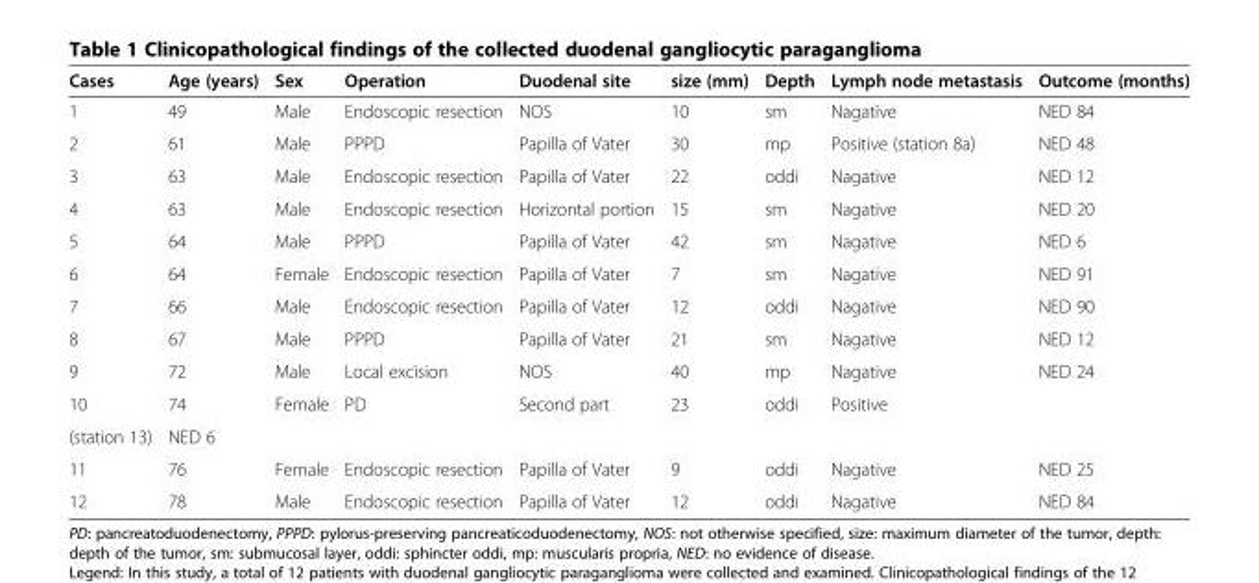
<table><thead><tr><td>Cases</td><td>Age (years)</td><td>Sex</td><td>Operation</td><td>Duodenal site</td><td>size (mm)</td><td>Depth</td><td>Lymph node metastasis</td><td>Outcome (months)</td></tr></thead><tbody><tr><td>1</td><td>49</td><td>Male</td><td>Endoscopic resection</td><td>NOS</td><td>10</td><td>sm</td><td>Nagative</td><td>NED 84</td></tr><tr><td>2</td><td>61</td><td>Male</td><td>PPPD</td><td>Papilla of Vater</td><td>30</td><td>mp</td><td>Positive (station 8a)</td><td>NED 48</td></tr><tr><td>3</td><td>63</td><td>Male</td><td>Endoscopic resection</td><td>Papilla of Vater</td><td>22</td><td>oddi</td><td>Nagative</td><td>NED 12</td></tr><tr><td>4</td><td>63</td><td>Male</td><td>Endoscopic resection</td><td>Horizontal portion</td><td>15</td><td>sm</td><td>Nagative</td><td>NED 20</td></tr><tr><td>5</td><td>64</td><td>Male</td><td>PPPD</td><td>Papilla of Vater</td><td>42</td><td>sm</td><td>Nagative</td><td>NED 6</td></tr><tr><td>6</td><td>64</td><td>Female</td><td>Endoscopic resection</td><td>Papilla of Vater</td><td>7</td><td>sm</td><td>Nagative</td><td>NED 91</td></tr><tr><td>7</td><td>66</td><td>Male</td><td>Endoscopic resection</td><td>Papilla of Vater</td><td>12</td><td>oddi</td><td>Nagative</td><td>NED 90</td></tr><tr><td>8</td><td>67</td><td>Male</td><td>PPPD</td><td>Papilla of Vater</td><td>21</td><td>sm</td><td>Nagative</td><td>NED 12</td></tr><tr><td>9</td><td>72</td><td>Male</td><td>Local excision</td><td>NOS</td><td>40</td><td>mp</td><td>Nagative</td><td>NED 24</td></tr><tr><td>10</td><td>74</td><td>Female</td><td>PD</td><td>Second part</td><td>23</td><td>oddi</td><td>Positive</td><td></td></tr><tr><td>(station 13)</td><td>NED 6</td><td></td><td></td><td></td><td></td><td></td><td></td><td></td></tr><tr><td>11</td><td>76</td><td>Female</td><td>Endoscopic resection</td><td>Papilla of Vater</td><td>9</td><td>oddi</td><td>Nagative</td><td>NED 25</td></tr><tr><td>12</td><td>78</td><td>Male</td><td>Endoscopic resection</td><td>Papilla of Vater</td><td>12</td><td>oddi</td><td>Nagative</td><td>NED 84</td></tr></tbody></table>